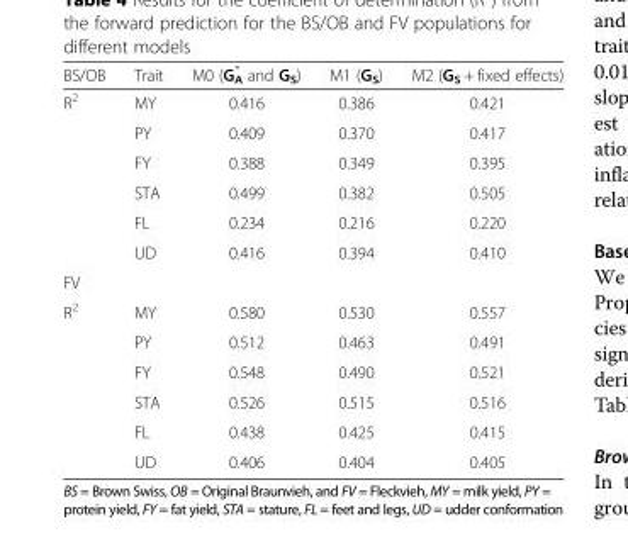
<table><thead><tr><td>BS/OB</td><td>Trait</td><td>M0 (G<sub>A</sub> * and G<sub>S</sub>)</td><td>M1 (G<sub>S</sub>)</td><td>M2 (G<sub>S</sub> + fixed effects)</td></tr></thead><tbody><tr><td rowspan="6">R<sup>2</sup></td><td>MY</td><td>0.416</td><td>0.386</td><td>0.421</td></tr><tr><td>PY</td><td>0.409</td><td>0.370</td><td>0.417</td></tr><tr><td>FY</td><td>0.388</td><td>0.349</td><td>0.395</td></tr><tr><td>STA</td><td>0.499</td><td>0.382</td><td>0.505</td></tr><tr><td>FL</td><td>0.234</td><td>0.216</td><td>0.220</td></tr><tr><td>UD</td><td>0.416</td><td>0.394</td><td>0.410</td></tr><tr><td colspan="5">FV</td></tr><tr><td rowspan="6">R<sup>2</sup></td><td>MY</td><td>0.580</td><td>0.530</td><td>0.557</td></tr><tr><td>PY</td><td>0.512</td><td>0.463</td><td>0.491</td></tr><tr><td>FY</td><td>0.548</td><td>0.490</td><td>0.521</td></tr><tr><td>STA</td><td>0.526</td><td>0.515</td><td>0.516</td></tr><tr><td>FL</td><td>0.438</td><td>0.425</td><td>0.415</td></tr><tr><td>UD</td><td>0.406</td><td>0.404</td><td>0.405</td></tr></tbody></table>